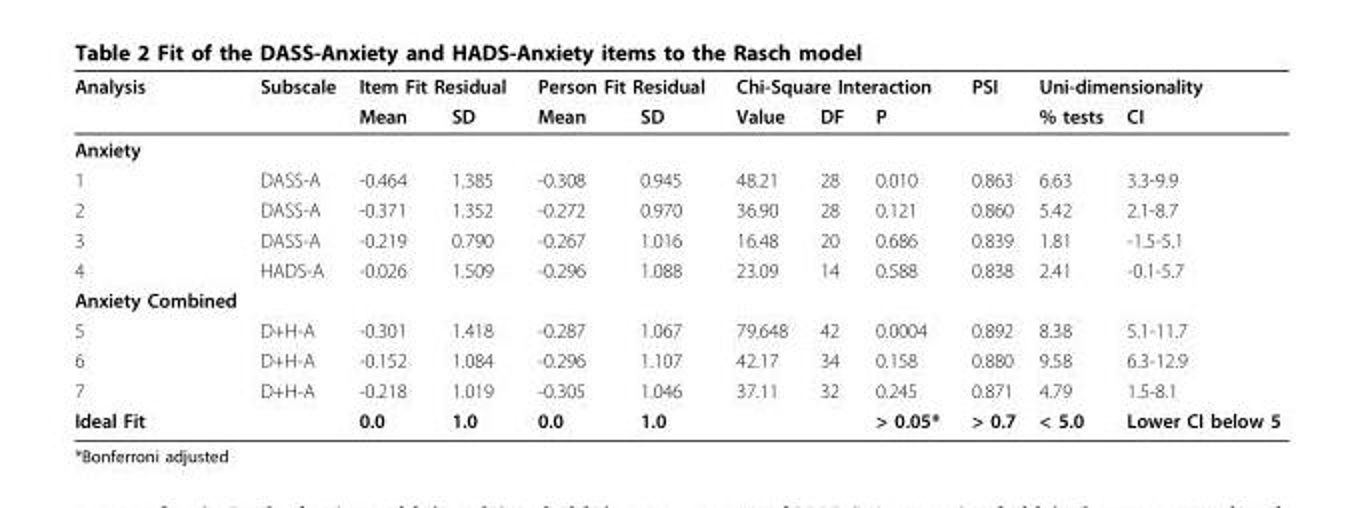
<table><thead><tr><td rowspan="2">Analysis</td><td rowspan="2">Subscale</td><td colspan="2">Item Fit Residual</td><td colspan="2">Person Fit Residual</td><td colspan="3">Chi-Square Interaction</td><td rowspan="2">PSI</td><td colspan="2">Uni-dimensionality</td></tr><tr><td>Mean</td><td>SD</td><td>Mean</td><td>SD</td><td>Value</td><td>DF</td><td>P</td><td>% tests</td><td>CI</td></tr></thead><tbody><tr><td colspan="12">Anxiety</td></tr><tr><td>1</td><td>DASS-A</td><td>-0.464</td><td>1.385</td><td>-0.308</td><td>0.945</td><td>48.21</td><td>28</td><td>0.010</td><td>0.863</td><td>6.63</td><td>3.3-9.9</td></tr><tr><td>2</td><td>DASS-A</td><td>-0.371</td><td>1.352</td><td>-0.272</td><td>0.970</td><td>36.90</td><td>28</td><td>0.121</td><td>0.860</td><td>5.42</td><td>2.1-8.7</td></tr><tr><td>3</td><td>DASS-A</td><td>-0.219</td><td>0.790</td><td>-0.267</td><td>1.016</td><td>16.48</td><td>20</td><td>0.686</td><td>0.839</td><td>1.81</td><td>-1.5-5.1</td></tr><tr><td>4</td><td>HADS-A</td><td>-0.026</td><td>1.509</td><td>-0.296</td><td>1.088</td><td>23.09</td><td>14</td><td>0.588</td><td>0.838</td><td>2.41</td><td>-0.1-5.7</td></tr><tr><td colspan="12">Anxiety Combined</td></tr><tr><td>5</td><td>D+H-A</td><td>-0.301</td><td>1.418</td><td>-0.287</td><td>1.067</td><td>79.648</td><td>42</td><td>0.0004</td><td>0.892</td><td>8.38</td><td>5.1-11.7</td></tr><tr><td>6</td><td>D+H-A</td><td>-0.152</td><td>1.084</td><td>-0.296</td><td>1.107</td><td>42.17</td><td>34</td><td>0.158</td><td>0.880</td><td>9.58</td><td>6.3-12.9</td></tr><tr><td>7</td><td>D+H-A</td><td>-0.218</td><td>1.019</td><td>-0.305</td><td>1.046</td><td>37.11</td><td>32</td><td>0.245</td><td>0.871</td><td>4.79</td><td>1.5-8.1</td></tr><tr><td>Ideal Fit</td><td></td><td>0.0</td><td>1.0</td><td>0.0</td><td>1.0</td><td></td><td></td><td>&gt; 0.05*</td><td>&gt; 0.7</td><td>&lt; 5.0</td><td>Lower CI below 5</td></tr></tbody></table>